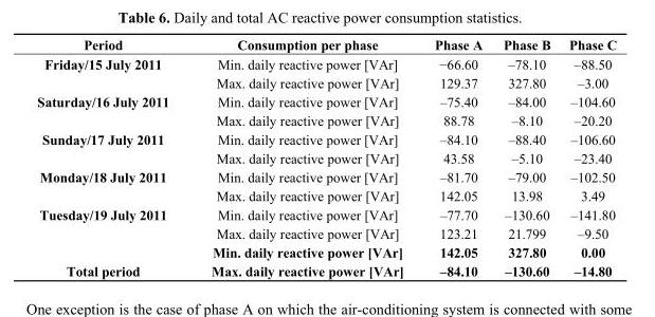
<table><thead><tr><td>Period</td><td>Consumption per phase</td><td>Phase A</td><td>Phase B</td><td>Phase C</td></tr></thead><tbody><tr><td rowspan="2">Friday/15 July 2011</td><td>Min. daily reactive power [VAr]</td><td>−66.60</td><td>–78.10</td><td>–88.50</td></tr><tr><td>Max. daily reactive power [VAr]</td><td>129.37</td><td>327.80</td><td>–3.00</td></tr><tr><td rowspan="2">Saturday/16 July 2011</td><td>Min. daily reactive power [VAr]</td><td>–75.40</td><td>–84.00</td><td>–104.60</td></tr><tr><td>Max. daily reactive power [VAr]</td><td>88.78</td><td>–8.10</td><td>–20.20</td></tr><tr><td rowspan="2">Sunday/17 July 2011</td><td>Min. daily reactive power [VAr]</td><td>–84.10</td><td>–88.40</td><td>–106.60</td></tr><tr><td>Max. daily reactive power [VAr]</td><td>43.58</td><td>–5.10</td><td>–23.40</td></tr><tr><td rowspan="2">Monday/18 July 2011</td><td>Min. daily reactive power [VAr]</td><td>–81.70</td><td>–79.00</td><td>–102.50</td></tr><tr><td>Max. daily reactive power [VAr]</td><td>142.05</td><td>13.98</td><td>3.49</td></tr><tr><td rowspan="3">Tuesday/19 July 2011</td><td>Min. daily reactive power [VAr]</td><td>–77.70</td><td>–130.60</td><td>–141.80</td></tr><tr><td>Max. daily reactive power [VAr]</td><td>123.21</td><td>21.799</td><td>–9.50</td></tr><tr><td>Min. daily reactive power [VAr]</td><td>142.05</td><td>327.80</td><td>0.00</td></tr><tr><td>Total period</td><td>Max. daily reactive power [VAr]</td><td>–84.10</td><td>–130.60</td><td>–14.80</td></tr></tbody></table>